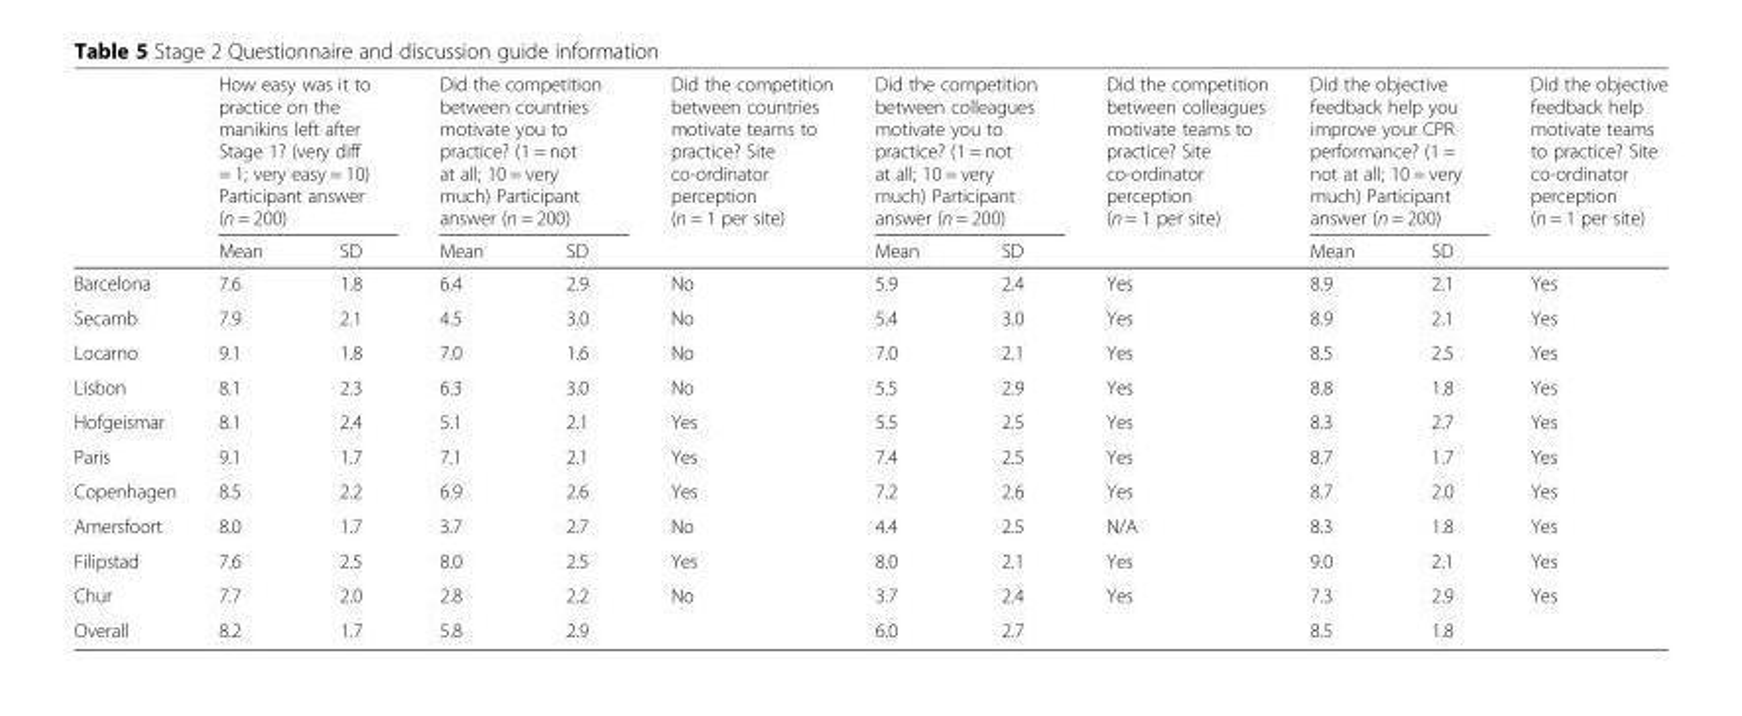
<table><thead><tr><td rowspan="2"></td><td colspan="2">How easy was it to practice on the manikins left after Stage 1? (very diff = 1; very easy = 10) Participant answer (n = 200)</td><td colspan="2">Did the competition between countries motivate you to practice? (1 = not at all; 10 = very much) Participant answer (n = 200)</td><td rowspan="2">Did the competition between countries motivate teams to practice? Site co-ordinator perception (n = 1 per site)</td><td colspan="2">Did the competition between colleagues motivate you to practice? (1 = not at all; 10 = very much) Participant answer (n = 200)</td><td rowspan="2">Did the competition between colleagues motivate teams to practice? Site co-ordinator perception (n = 1 per site)</td><td colspan="2">Did the objective feedback help you improve your CPR performance? (1 = not at all; 10 = very much) Participant answer (n = 200)</td><td rowspan="2">Did the objective feedback help motivate teams to practice? Site co-ordinator perception (n = 1 per site)</td></tr><tr><td>Mean</td><td>SD</td><td>Mean</td><td>SD</td><td>Mean</td><td>SD</td><td>Mean</td><td>SD</td></tr></thead><tbody><tr><td>Barcelona</td><td>7.6</td><td>1.8</td><td>6.4</td><td>2.9</td><td>No</td><td>5.9</td><td>2.4</td><td>Yes</td><td>8.9</td><td>2.1</td><td>Yes</td></tr><tr><td>Secamb</td><td>7.9</td><td>2.1</td><td>4.5</td><td>3.0</td><td>No</td><td>5.4</td><td>3.0</td><td>Yes</td><td>8.9</td><td>2.1</td><td>Yes</td></tr><tr><td>Locarno</td><td>9.1</td><td>1.8</td><td>7.0</td><td>1.6</td><td>No</td><td>7.0</td><td>2.1</td><td>Yes</td><td>8.5</td><td>2.5</td><td>Yes</td></tr><tr><td>Lisbon</td><td>8.1</td><td>2.3</td><td>6.3</td><td>3.0</td><td>No</td><td>5.5</td><td>2.9</td><td>Yes</td><td>8.8</td><td>1.8</td><td>Yes</td></tr><tr><td>Hofgeismar</td><td>8.1</td><td>2.4</td><td>5.1</td><td>2.1</td><td>Yes</td><td>5.5</td><td>2.5</td><td>Yes</td><td>8.3</td><td>2.7</td><td>Yes</td></tr><tr><td>Paris</td><td>9.1</td><td>1.7</td><td>7.1</td><td>2.1</td><td>Yes</td><td>7.4</td><td>2.5</td><td>Yes</td><td>8.7</td><td>1.7</td><td>Yes</td></tr><tr><td>Copenhagen</td><td>8.5</td><td>2.2</td><td>6.9</td><td>2.6</td><td>Yes</td><td>7.2</td><td>2.6</td><td>Yes</td><td>8.7</td><td>2.0</td><td>Yes</td></tr><tr><td>Amersfoort</td><td>8.0</td><td>1.7</td><td>3.7</td><td>2.7</td><td>No</td><td>4.4</td><td>2.5</td><td>N/A</td><td>8.3</td><td>1.8</td><td>Yes</td></tr><tr><td>Filipstad</td><td>7.6</td><td>2.5</td><td>8.0</td><td>2.5</td><td>Yes</td><td>8.0</td><td>2.1</td><td>Yes</td><td>9.0</td><td>2.1</td><td>Yes</td></tr><tr><td>Chur</td><td>7.7</td><td>2.0</td><td>2.8</td><td>2.2</td><td>No</td><td>3.7</td><td>2.4</td><td>Yes</td><td>7.3</td><td>2.9</td><td>Yes</td></tr><tr><td>Overall</td><td>8.2</td><td>1.7</td><td>5.8</td><td>2.9</td><td></td><td>6.0</td><td>2.7</td><td></td><td>8.5</td><td>1.8</td><td></td></tr></tbody></table>